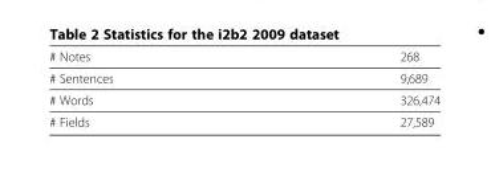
<table><tbody><tr><td># Notes</td><td>268</td></tr><tr><td># Sentences</td><td>9,689</td></tr><tr><td># Words</td><td>326,474</td></tr><tr><td># Fields</td><td>27,589</td></tr></tbody></table>